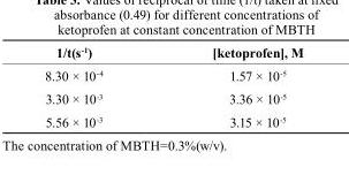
<table><thead><tr><td>1/t(s<sup>-1</sup>)</td><td>[ketoprofen], M</td></tr></thead><tbody><tr><td>8.30 × 10<sup>-4</sup></td><td>1.57 × 10<sup>-5</sup></td></tr><tr><td>3.30 × 10<sup>-3</sup></td><td>3.36 × 10<sup>-5</sup></td></tr><tr><td>5.56 × 10<sup>-3</sup></td><td>3.15 × 10<sup>-5</sup></td></tr></tbody></table>